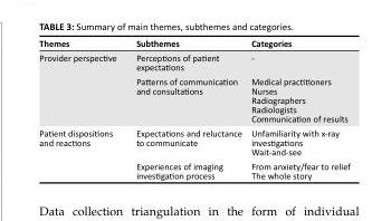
<table><thead><tr><td>Themes</td><td>Subthemes</td><td>Categories</td></tr></thead><tbody><tr><td rowspan="2">Provider perspective</td><td>Perceptions of patient expectations</td><td>-</td></tr><tr><td>Patterns of communication and consultations</td><td>Medical practitioners Nurses Radiographers Radiologists Communication of results</td></tr><tr><td rowspan="2">Patient dispositions and reactions</td><td>Expectations and reluctance to communicate</td><td>Unfamiliarity with x-ray investigations Wait-and-see</td></tr><tr><td>Experiences of imaging investigation process</td><td>From anxiety/fear to relief The whole story</td></tr></tbody></table>